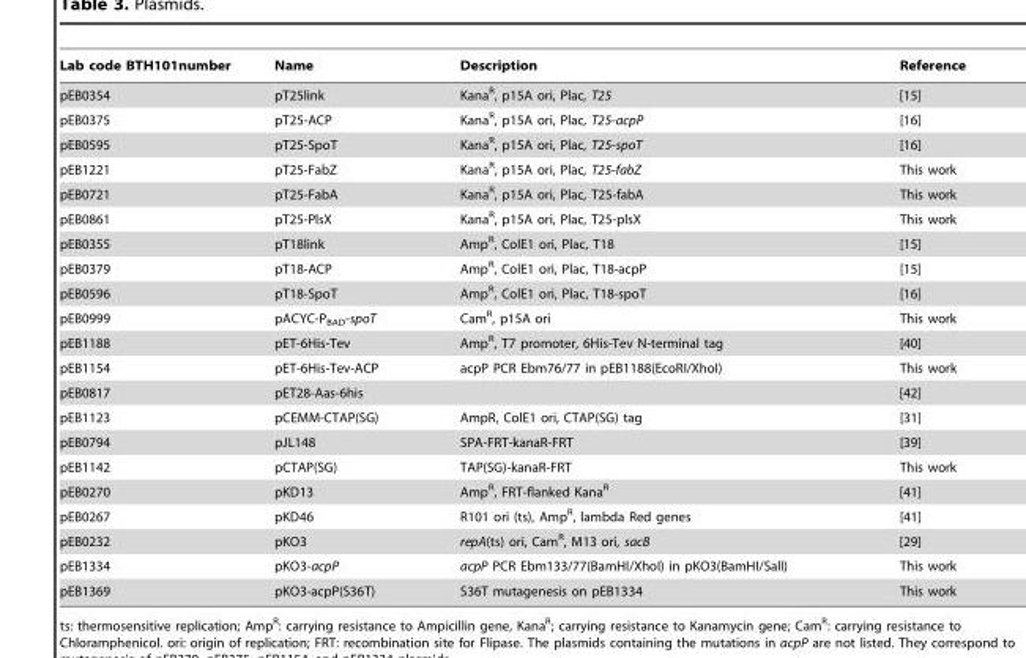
<table><thead><tr><td>Lab code BTH101number</td><td>Name</td><td>Description</td><td>Reference</td></tr></thead><tbody><tr><td>pEB0354</td><td>pT25link</td><td>Kana<sup>R</sup>, p15A ori, Plac, T25</td><td>[15]</td></tr><tr><td>pEB0375</td><td>pT25-ACP</td><td>Kana<sup>R</sup>, p15A ori, Plac, T25-acpP</td><td>[16]</td></tr><tr><td>pEB0595</td><td>pT25-SpoT</td><td>Kana<sup>R</sup>, p15A ori, Plac, T25-spoT</td><td>[16]</td></tr><tr><td>pEB1221</td><td>pT25-FabZ</td><td>Kana<sup>R</sup>, p15A ori, Plac, T25-fabZ</td><td>This work</td></tr><tr><td>pEB0721</td><td>pT25-FabA</td><td>Kana<sup>R</sup>, p15A ori, Plac, T25-fabA</td><td>This work</td></tr><tr><td>pEB0861</td><td>pT25-PlsX</td><td>Kana<sup>R</sup>, p15A ori, Plac, T25-plsX</td><td>This work</td></tr><tr><td>pEB0355</td><td>pT18link</td><td>Amp<sup>R</sup>, ColE1 ori, Plac, T18</td><td>[15]</td></tr><tr><td>pEB0379</td><td>pT18-ACP</td><td>Amp<sup>R</sup>, ColE1 ori, Plac, T18-acpP</td><td>[15]</td></tr><tr><td>pEB0596</td><td>pT18-SpoT</td><td>Amp<sup>R</sup>, ColE1 ori, Plac, T18-spoT</td><td>[16]</td></tr><tr><td>pEB0999</td><td>pACYC-P<sub>BAD</sub>-spoT</td><td>Cam<sup>R</sup>, p15A ori</td><td>This work</td></tr><tr><td>pEB1188</td><td>pET-6His-Tev</td><td>Amp<sup>R</sup>, T7 promoter, 6His-Tev N-terminal tag</td><td>[40]</td></tr><tr><td>pEB1154</td><td>pET-6His-Tev-ACP</td><td>acpP PCR Ebm76/77 in pEB1188(EcoRI/XhoI)</td><td>This work</td></tr><tr><td>pEB0817</td><td>pET28-Aas-6his</td><td></td><td>[42]</td></tr><tr><td>pEB1123</td><td>pCEMM-CTAP(SG)</td><td>AmpR, ColE1 ori, CTAP(SG) tag</td><td>[31]</td></tr><tr><td>pEB0794</td><td>pJL148</td><td>SPA-FRT-kanaR-FRT</td><td>[39]</td></tr><tr><td>pEB1142</td><td>pCTAP(SG)</td><td>TAP(SG)-kanaR-FRT</td><td>This work</td></tr><tr><td>pEB0270</td><td>pKD13</td><td>Amp<sup>R</sup>, FRT-flanked Kana<sup>R</sup></td><td>[41]</td></tr><tr><td>pEB0267</td><td>pKD46</td><td>R101 ori (ts), Amp<sup>R</sup>, lambda Red genes</td><td>[41]</td></tr><tr><td>pEB0232</td><td>pKO3</td><td>repA(ts) ori, Cam<sup>R</sup>, M13 ori, sacB</td><td>[29]</td></tr><tr><td>pEB1334</td><td>pKO3-acpP</td><td>acpP PCR Ebm133/77(BamHI/XhoI) in pKO3(BamHI/SalI)</td><td>This work</td></tr><tr><td>pEB1369</td><td>pKO3-acpP(S36T)</td><td>S36T mutagenesis on pEB1334</td><td>This work</td></tr></tbody></table>